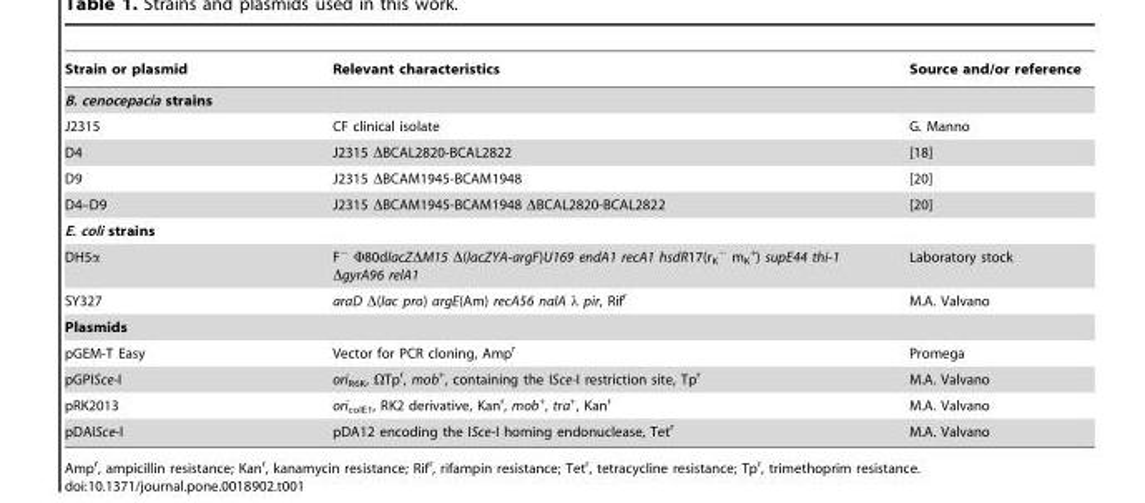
<table><thead><tr><td>Strain or plasmid</td><td>Relevant characteristics</td><td>Source and/or reference</td></tr></thead><tbody><tr><td colspan="3">B. cenocepacia strains</td></tr><tr><td>J2315</td><td>CF clinical isolate</td><td>G. Manno</td></tr><tr><td>D4</td><td>J2315 ΔBCAL2820-BCAL2822</td><td>[18]</td></tr><tr><td>D9</td><td>J2315 ΔBCAM1945-BCAM1948</td><td>[20]</td></tr><tr><td>D4–D9</td><td>J2315 ΔBCAM1945-BCAM1948 ΔBCAL2820-BCAL2822</td><td>[20]</td></tr><tr><td colspan="3">E. coli strains</td></tr><tr><td>DH5α</td><td>F<sup>−</sup> Φ80dlacZΔM15 Δ(lacZYA-argF)U169 endA1 recA1 hsdR17(r<sub>K</sub> <sup>−</sup> m<sub>K</sub> <sup>+</sup>) supE44 thi-1 ΔgyrA96 relA1</td><td>Laboratory stock</td></tr><tr><td>SY327</td><td>araD Δ(lac pro) argE(Am) recA56 nalA λ pir, Rif<sup>r</sup></td><td>M.A. Valvano</td></tr><tr><td colspan="3">Plasmids</td></tr><tr><td>pGEM-T Easy</td><td>Vector for PCR cloning, Amp<sup>r</sup></td><td>Promega</td></tr><tr><td>pGPISce-I</td><td>ori<sub>R6K</sub>, ΩTp<sup>r</sup>, mob<sup>+</sup>, containing the ISce-I restriction site, Tp<sup>r</sup></td><td>M.A. Valvano</td></tr><tr><td>pRK2013</td><td>ori<sub>colE1</sub>, RK2 derivative, Kan<sup>r</sup>, mob<sup>+</sup>, tra<sup>+</sup>, Kan<sup>r</sup></td><td>M.A. Valvano</td></tr><tr><td>pDAISce-I</td><td>pDA12 encoding the ISce-I homing endonuclease, Tet<sup>r</sup></td><td>M.A. Valvano</td></tr></tbody></table>